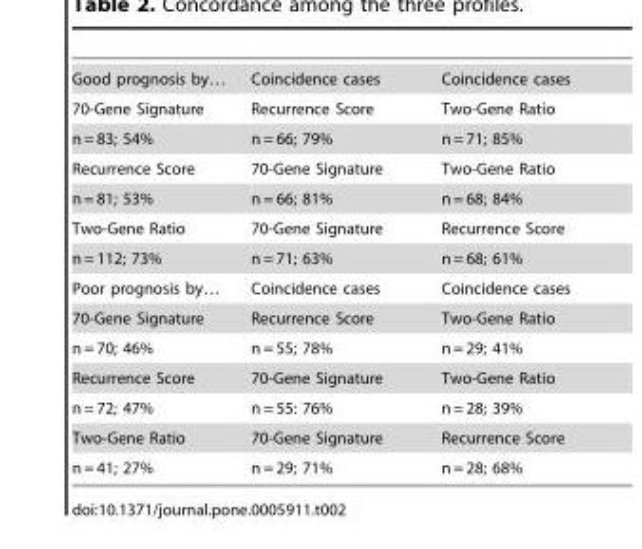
<table><tbody><tr><td>Good prognosis by…</td><td>Coincidence cases</td><td>Coincidence cases</td></tr><tr><td>70-Gene Signature</td><td>Recurrence Score</td><td>Two-Gene Ratio</td></tr><tr><td>n = 83; 54%</td><td>n = 66; 79%</td><td>n = 71; 85%</td></tr><tr><td>Recurrence Score</td><td>70-Gene Signature</td><td>Two-Gene Ratio</td></tr><tr><td>n = 81; 53%</td><td>n = 66; 81%</td><td>n = 68; 84%</td></tr><tr><td>Two-Gene Ratio</td><td>70-Gene Signature</td><td>Recurrence Score</td></tr><tr><td>n = 112; 73%</td><td>n = 71; 63%</td><td>n = 68; 61%</td></tr><tr><td>Poor prognosis by…</td><td>Coincidence cases</td><td>Coincidence cases</td></tr><tr><td>70-Gene Signature</td><td>Recurrence Score</td><td>Two-Gene Ratio</td></tr><tr><td>n = 70; 46%</td><td>n = 55; 78%</td><td>n = 29; 41%</td></tr><tr><td>Recurrence Score</td><td>70-Gene Signature</td><td>Two-Gene Ratio</td></tr><tr><td>n = 72; 47%</td><td>n = 55: 76%</td><td>n = 28; 39%</td></tr><tr><td>Two-Gene Ratio</td><td>70-Gene Signature</td><td>Recurrence Score</td></tr><tr><td>n = 41; 27%</td><td>n = 29; 71%</td><td>n = 28; 68%</td></tr></tbody></table>